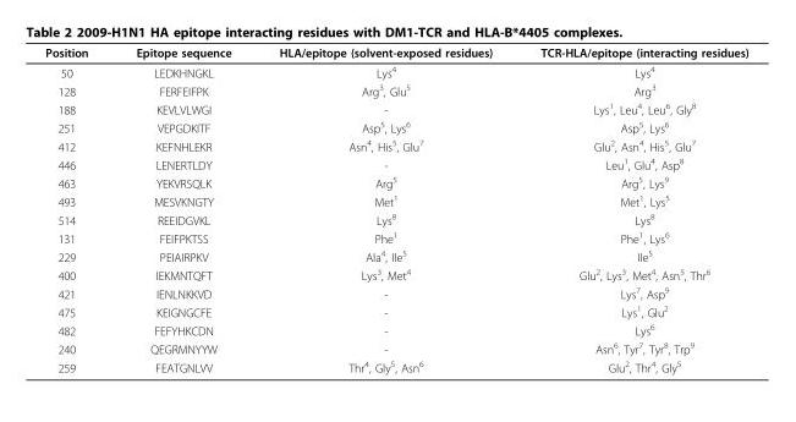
<table><thead><tr><td>Position</td><td>Epitope sequence</td><td>HLA/epitope (solvent-exposed residues)</td><td>TCR-HLA/epitope (interacting residues)</td></tr></thead><tbody><tr><td>50</td><td>LEDKHNGKL</td><td>Lys<sup>4</sup></td><td>Lys<sup>4</sup></td></tr><tr><td>128</td><td>FERFEIFPK</td><td>Arg<sup>3</sup>, Glu<sup>5</sup></td><td>Arg<sup>3</sup></td></tr><tr><td>188</td><td>KEVLVLWGI</td><td>-</td><td>Lys<sup>1</sup>, Leu<sup>4</sup>, Leu<sup>6</sup>, Gly<sup>8</sup></td></tr><tr><td>251</td><td>VEPGDKITF</td><td>Asp<sup>5</sup>, Lys<sup>6</sup></td><td>Asp<sup>5</sup>, Lys<sup>6</sup></td></tr><tr><td>412</td><td>KEFNHLEKR</td><td>Asn<sup>4</sup>, His<sup>5</sup>, Glu<sup>7</sup></td><td>Glu<sup>2</sup>, Asn<sup>4</sup>, His<sup>5</sup>, Glu<sup>7</sup></td></tr><tr><td>446</td><td>LENERTLDY</td><td>-</td><td>Leu<sup>1</sup>, Glu<sup>4</sup>, Asp<sup>8</sup></td></tr><tr><td>463</td><td>YEKVRSQLK</td><td>Arg<sup>5</sup></td><td>Arg<sup>5</sup>, Lys<sup>9</sup></td></tr><tr><td>493</td><td>MESVKNGTY</td><td>Met<sup>1</sup></td><td>Met<sup>1</sup>, Lys<sup>5</sup></td></tr><tr><td>514</td><td>REEIDGVKL</td><td>Lys<sup>8</sup></td><td>Lys<sup>8</sup></td></tr><tr><td>131</td><td>FEIFPKTSS</td><td>Phe<sup>1</sup></td><td>Phe<sup>1</sup>, Lys<sup>6</sup></td></tr><tr><td>229</td><td>PEIAIRPKV</td><td>Ala<sup>4</sup>, Ile<sup>5</sup></td><td>Ile<sup>5</sup></td></tr><tr><td>400</td><td>IEKMNTQFT</td><td>Lys<sup>3</sup>, Met<sup>4</sup></td><td>Glu<sup>2</sup>, Lys<sup>3</sup>, Met<sup>4</sup>, Asn<sup>5</sup>, Thr<sup>6</sup></td></tr><tr><td>421</td><td>IENLNKKVD</td><td>-</td><td>Lys<sup>7</sup>, Asp<sup>9</sup></td></tr><tr><td>475</td><td>KEIGNGCFE</td><td>-</td><td>Lys<sup>1</sup>, Glu<sup>2</sup></td></tr><tr><td>482</td><td>FEFYHKCDN</td><td>-</td><td>Lys<sup>6</sup></td></tr><tr><td>240</td><td>QEGRMNYYW</td><td>-</td><td>Asn<sup>6</sup>, Tyr<sup>7</sup>, Tyr<sup>8</sup>, Trp<sup>9</sup></td></tr><tr><td>259</td><td>FEATGNLVV</td><td>Thr<sup>4</sup>, Gly<sup>5</sup>, Asn<sup>6</sup></td><td>Glu<sup>2</sup>, Thr<sup>4</sup>, Gly<sup>5</sup></td></tr></tbody></table>